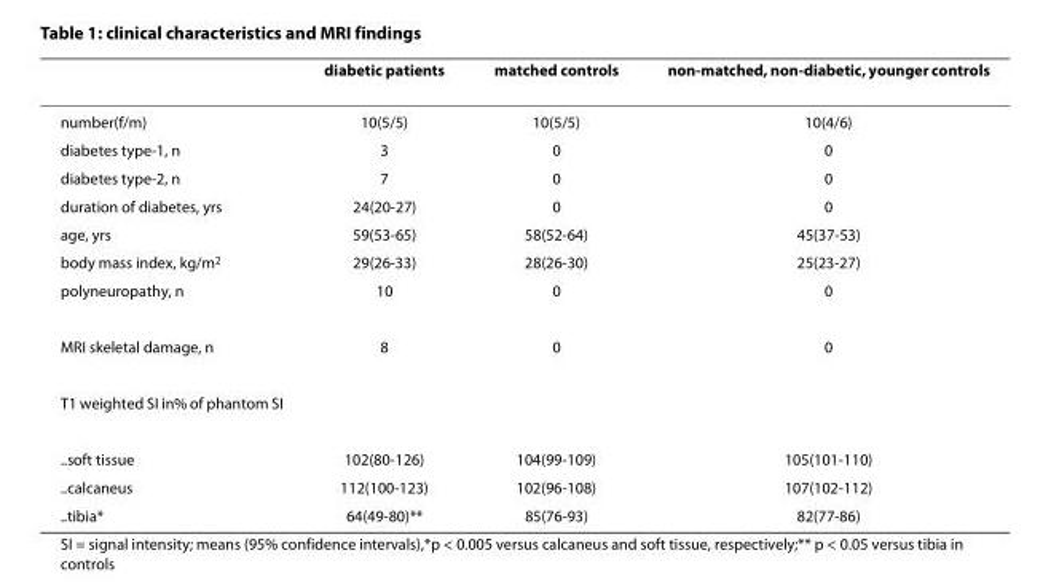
<table><thead><tr><td></td><td>diabetic patients</td><td>matched controls</td><td>non-matched, non-diabetic, younger controls</td></tr></thead><tbody><tr><td>number(f/m)</td><td>10(5/5)</td><td>10(5/5)</td><td>10(4/6)</td></tr><tr><td>diabetes type-1, n</td><td>3</td><td>0</td><td>0</td></tr><tr><td>diabetes type-2, n</td><td>7</td><td>0</td><td>0</td></tr><tr><td>duration of diabetes, yrs</td><td>24(20-27)</td><td>0</td><td>0</td></tr><tr><td>age, yrs</td><td>59(53-65)</td><td>58(52-64)</td><td>45(37-53)</td></tr><tr><td>body mass index, kg/m<sup>2</sup></td><td>29(26-33)</td><td>28(26-30)</td><td>25(23-27)</td></tr><tr><td>polyneuropathy, n</td><td>10</td><td>0</td><td>0</td></tr><tr><td>MRI skeletal damage, n</td><td>8</td><td>0</td><td>0</td></tr><tr><td colspan="4">T1 weighted SI in% of phantom SI</td></tr><tr><td>..soft tissue</td><td>102(80-126)</td><td>104(99-109)</td><td>105(101-110)</td></tr><tr><td>..calcaneus</td><td>112(100-123)</td><td>102(96-108)</td><td>107(102-112)</td></tr><tr><td>..tibia*</td><td>64(49-80)**</td><td>85(76-93)</td><td>82(77-86)</td></tr></tbody></table>